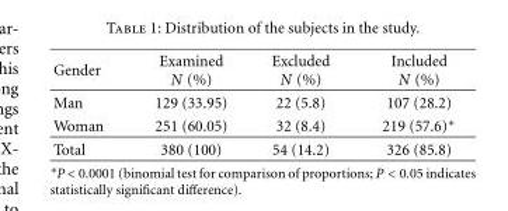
<table><thead><tr><td>Gender</td><td>Examined N (%)</td><td>Excluded N (%)</td><td>Included N (%)</td></tr></thead><tbody><tr><td>Man</td><td>129 (33.95)</td><td>22 (5.8)</td><td>107 (28.2)</td></tr><tr><td>Woman</td><td>251 (60.05)</td><td>32 (8.4)</td><td>219 (57.6)∗</td></tr><tr><td>Total</td><td>380 (100)</td><td>54 (14.2)</td><td>326 (85.8)</td></tr></tbody></table>